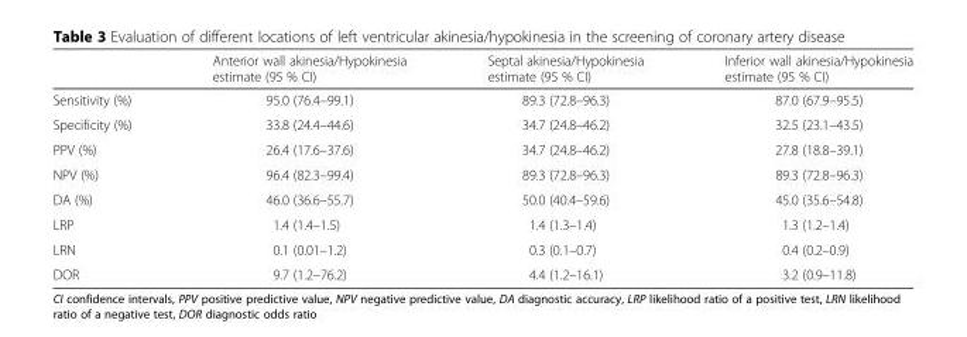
<table><thead><tr><td></td><td>Anterior wall akinesia/Hypokinesia estimate (95 % CI)</td><td>Septal akinesia/Hypokinesia estimate (95 % CI)</td><td>Inferior wall akinesia/Hypokinesia estimate (95 % CI)</td></tr></thead><tbody><tr><td>Sensitivity (%)</td><td>95.0 (76.4–99.1)</td><td>89.3 (72.8–96.3)</td><td>87.0 (67.9–95.5)</td></tr><tr><td>Specificity (%)</td><td>33.8 (24.4–44.6)</td><td>34.7 (24.8–46.2)</td><td>32.5 (23.1–43.5)</td></tr><tr><td>PPV (%)</td><td>26.4 (17.6–37.6)</td><td>34.7 (24.8–46.2)</td><td>27.8 (18.8–39.1)</td></tr><tr><td>NPV (%)</td><td>96.4 (82.3–99.4)</td><td>89.3 (72.8–96.3)</td><td>89.3 (72.8–96.3)</td></tr><tr><td>DA (%)</td><td>46.0 (36.6–55.7)</td><td>50.0 (40.4–59.6)</td><td>45.0 (35.6–54.8)</td></tr><tr><td>LRP</td><td>1.4 (1.4–1.5)</td><td>1.4 (1.3–1.4)</td><td>1.3 (1.2–1.4)</td></tr><tr><td>LRN</td><td>0.1 (0.01–1.2)</td><td>0.3 (0.1–0.7)</td><td>0.4 (0.2–0.9)</td></tr><tr><td>DOR</td><td>9.7 (1.2–76.2)</td><td>4.4 (1.2–16.1)</td><td>3.2 (0.9–11.8)</td></tr></tbody></table>